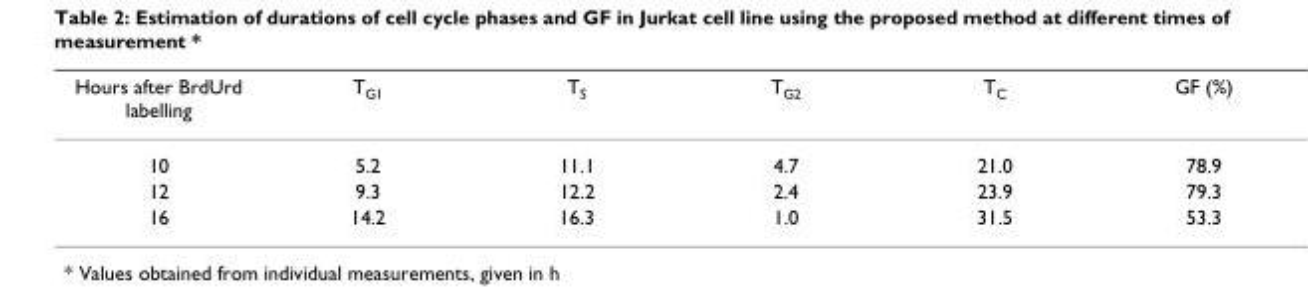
<table><thead><tr><td>Hours after BrdUrd labelling</td><td>TG1</td><td>TS</td><td>TG2</td><td>TC</td><td>GF (%)</td></tr></thead><tbody><tr><td>10</td><td>5.2</td><td>11.1</td><td>4.7</td><td>21.0</td><td>78.9</td></tr><tr><td>12</td><td>9.3</td><td>12.2</td><td>2.4</td><td>23.9</td><td>79.3</td></tr><tr><td>16</td><td>14.2</td><td>16.3</td><td>1.0</td><td>31.5</td><td>53.3</td></tr></tbody></table>